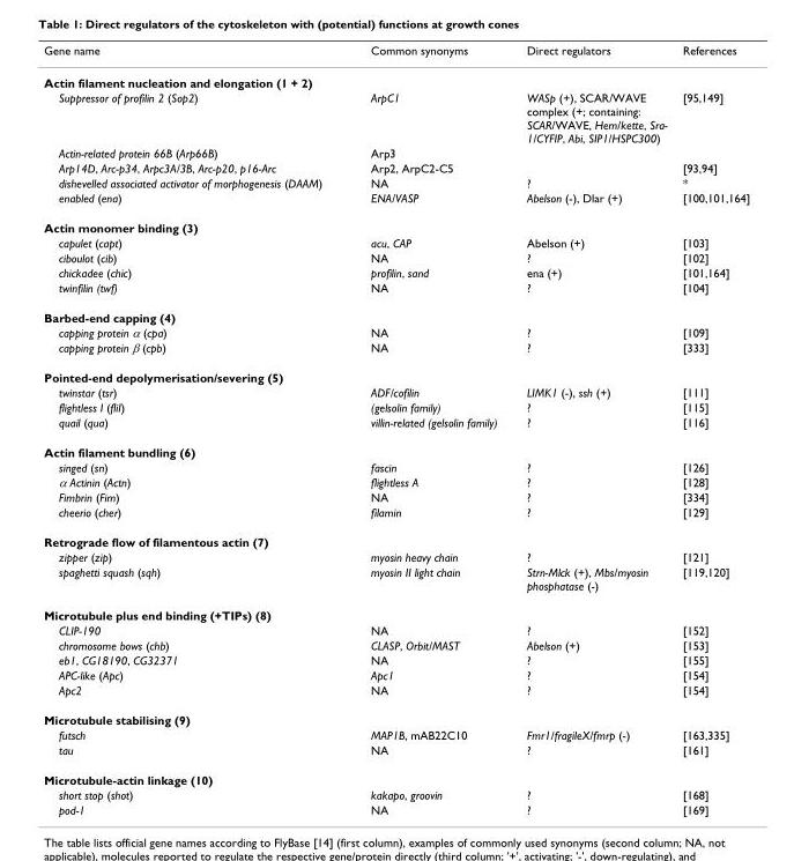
<table><thead><tr><td>Gene name</td><td>Common synonyms</td><td>Direct regulators</td><td>References</td></tr></thead><tbody><tr><td colspan="4">Actin filament nucleation and elongation (1 + 2)</td></tr><tr><td>Suppressor of profilin 2 (Sop2)</td><td>ArpC1</td><td>WASp (+), SCAR/WAVE complex (+; containing: SCAR/WAVE, Hem/kette, Sra- 1/CYFIP, Abi, SIP1/HSPC300)</td><td>[95,149]</td></tr><tr><td>Actin-related protein 66B (Arp66B)</td><td>Arp3</td><td></td><td></td></tr><tr><td>Arp14D, Arc-p34, Arpc3A/3B, Arc-p20, p16-Arc</td><td>Arp2, ArpC2-C5</td><td></td><td>[93,94]</td></tr><tr><td>dishevelled associated activator of morphogenesis (DAAM)</td><td>NA</td><td>?</td><td>*</td></tr><tr><td>enabled (ena)</td><td>ENA/VASP</td><td>Abelson (-), Dlar (+)</td><td>[100,101,164]</td></tr><tr><td colspan="4">Actin monomer binding (3)</td></tr><tr><td>capulet (capt)</td><td>acu, CAP</td><td>Abelson (+)</td><td>[103]</td></tr><tr><td>ciboulot (cib)</td><td>NA</td><td>?</td><td>[102]</td></tr><tr><td>chickadee (chic)</td><td>profilin, sand</td><td>ena (+)</td><td>[101,164]</td></tr><tr><td>twinfilin (twf)</td><td>NA</td><td>?</td><td>[104]</td></tr><tr><td colspan="4">Barbed-end capping (4)</td></tr><tr><td>capping protein α (cpa)</td><td>NA</td><td>?</td><td>[109]</td></tr><tr><td>capping protein β (cpb)</td><td>NA</td><td>?</td><td>[333]</td></tr><tr><td colspan="4">Pointed-end depolymerisation/severing (5)</td></tr><tr><td>twinstar (tsr)</td><td>ADF/cofilin</td><td>LIMK1 (-), ssh (+)</td><td>[111]</td></tr><tr><td>flightless I (fliI)</td><td>(gelsolin family)</td><td>?</td><td>[115]</td></tr><tr><td>quail (qua)</td><td>villin-related (gelsolin family)</td><td>?</td><td>[116]</td></tr><tr><td colspan="4">Actin filament bundling (6)</td></tr><tr><td>singed (sn)</td><td>fascin</td><td>?</td><td>[126]</td></tr><tr><td>α Actinin (Actn)</td><td>flightless A</td><td>?</td><td>[128]</td></tr><tr><td>Fimbrin (Fim)</td><td>NA</td><td>?</td><td>[334]</td></tr><tr><td>cheerio (cher)</td><td>filamin</td><td>?</td><td>[129]</td></tr><tr><td colspan="4">Retrograde flow of filamentous actin (7)</td></tr><tr><td>zipper (zip)</td><td>myosin heavy chain</td><td>?</td><td>[121]</td></tr><tr><td>spaghetti squash (sqh)</td><td>myosin II light chain</td><td>Strn-Mlck (+), Mbs/myosin phosphatase (-)</td><td>[119,120]</td></tr><tr><td colspan="4">Microtubule plus end binding (+TIPs) (8)</td></tr><tr><td>CLIP-190</td><td>NA</td><td>?</td><td>[152]</td></tr><tr><td>chromosome bows (chb)</td><td>CLASP, Orbit/MAST</td><td>Abelson (+)</td><td>[153]</td></tr><tr><td>eb1, CG18190, CG32371</td><td>NA</td><td>?</td><td>[155]</td></tr><tr><td>APC-like (Apc)</td><td>Apc1</td><td>?</td><td>[154]</td></tr><tr><td>Apc2</td><td>NA</td><td>?</td><td>[154]</td></tr><tr><td colspan="4">Microtubule stabilising (9)</td></tr><tr><td>futsch</td><td>MAP1B, mAB22C10</td><td>Fmr1/fragileX/fmrp (-)</td><td>[163,335]</td></tr><tr><td>tau</td><td>NA</td><td>?</td><td>[161]</td></tr><tr><td colspan="4">Microtubule-actin linkage (10)</td></tr><tr><td>short stop (shot)</td><td>kakapo, groovin</td><td>?</td><td>[168]</td></tr><tr><td>pod-1</td><td>NA</td><td>?</td><td>[169]</td></tr></tbody></table>